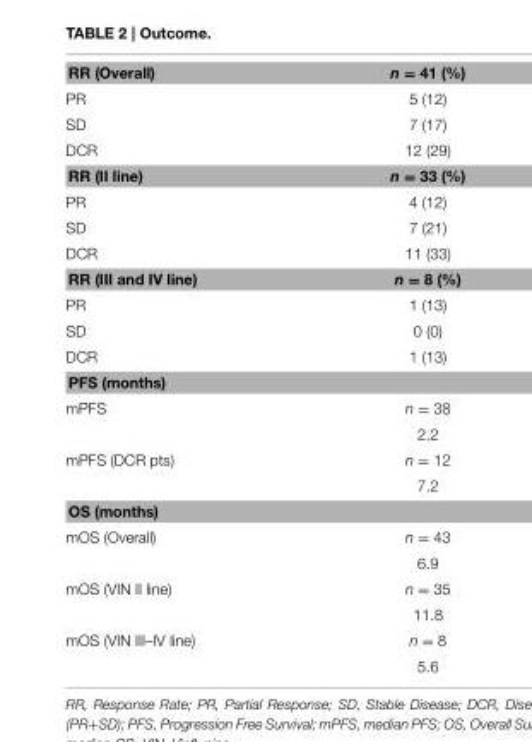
<table><thead><tr><td>RR (Overall)</td><td>n = 41 (%)</td></tr></thead><tbody><tr><td>PR</td><td>5 (12)</td></tr><tr><td>SD</td><td>7 (17)</td></tr><tr><td>DCR</td><td>12 (29)</td></tr><tr><td>RR (II line)</td><td>n = 33 (%)</td></tr><tr><td>PR</td><td>4 (12)</td></tr><tr><td>SD</td><td>7 (21)</td></tr><tr><td>DCR</td><td>11 (33)</td></tr><tr><td>RR (III and IV line)</td><td>n = 8 (%)</td></tr><tr><td>PR</td><td>1 (13)</td></tr><tr><td>SD</td><td>0 (0)</td></tr><tr><td>DCR</td><td>1 (13)</td></tr><tr><td colspan="2">PFS (months)</td></tr><tr><td rowspan="2">mPFS</td><td>n = 38</td></tr><tr><td>2.2</td></tr><tr><td rowspan="2">mPFS (DCR pts)</td><td>n = 12</td></tr><tr><td>7.2</td></tr><tr><td colspan="2">OS (months)</td></tr><tr><td rowspan="2">mOS (Overall)</td><td>n = 43</td></tr><tr><td>6.9</td></tr><tr><td rowspan="2">mOS (VIN II line)</td><td>n = 35</td></tr><tr><td>11.8</td></tr><tr><td rowspan="2">mOS (VIN III–IV line)</td><td>n = 8</td></tr><tr><td>5.6</td></tr></tbody></table>